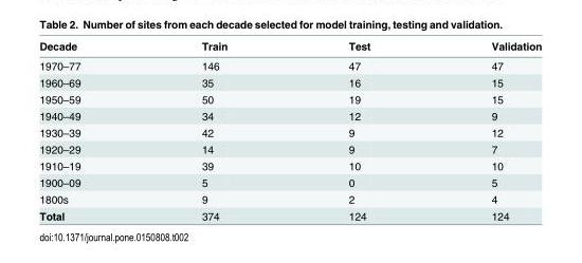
<table><thead><tr><td>Decade</td><td>Train</td><td>Test</td><td>Validation</td></tr></thead><tbody><tr><td>1970–77</td><td>146</td><td>47</td><td>47</td></tr><tr><td>1960–69</td><td>35</td><td>16</td><td>15</td></tr><tr><td>1950–59</td><td>50</td><td>19</td><td>15</td></tr><tr><td>1940–49</td><td>34</td><td>12</td><td>9</td></tr><tr><td>1930–39</td><td>42</td><td>9</td><td>12</td></tr><tr><td>1920–29</td><td>14</td><td>9</td><td>7</td></tr><tr><td>1910–19</td><td>39</td><td>10</td><td>10</td></tr><tr><td>1900–09</td><td>5</td><td>0</td><td>5</td></tr><tr><td>1800s</td><td>9</td><td>2</td><td>4</td></tr><tr><td>Total</td><td>374</td><td>124</td><td>124</td></tr></tbody></table>